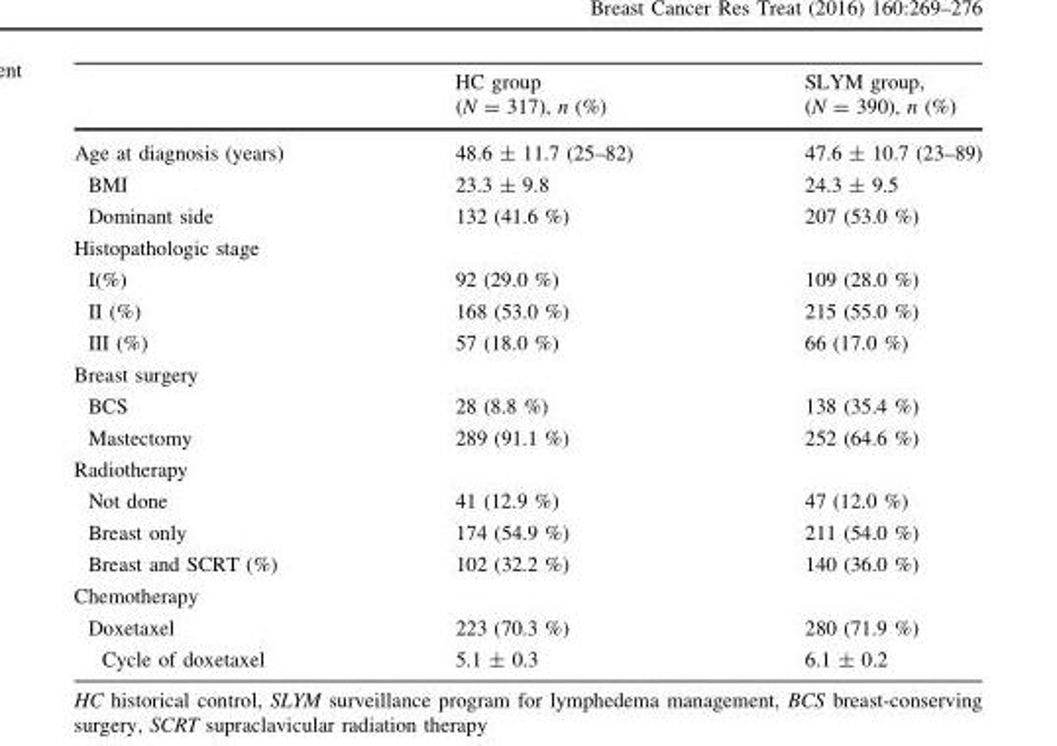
<table><thead><tr><td></td><td>HC group (N = 317), n (%)</td><td>SLYM group, (N = 390), n (%)</td></tr></thead><tbody><tr><td>Age at diagnosis (years)</td><td>48.6 ± 11.7 (25–82)</td><td>47.6 ± 10.7 (23–89)</td></tr><tr><td>BMI</td><td>23.3 ± 9.8</td><td>24.3 ± 9.5</td></tr><tr><td>Dominant side</td><td>132 (41.6 %)</td><td>207 (53.0 %)</td></tr><tr><td colspan="3">Histopathologic stage</td></tr><tr><td>I(%)</td><td>92 (29.0 %)</td><td>109 (28.0 %)</td></tr><tr><td>II (%)</td><td>168 (53.0 %)</td><td>215 (55.0 %)</td></tr><tr><td>III (%)</td><td>57 (18.0 %)</td><td>66 (17.0 %)</td></tr><tr><td colspan="3">Breast surgery</td></tr><tr><td>BCS</td><td>28 (8.8 %)</td><td>138 (35.4 %)</td></tr><tr><td>Mastectomy</td><td>289 (91.1 %)</td><td>252 (64.6 %)</td></tr><tr><td colspan="3">Radiotherapy</td></tr><tr><td>Not done</td><td>41 (12.9 %)</td><td>47 (12.0 %)</td></tr><tr><td>Breast only</td><td>174 (54.9 %)</td><td>211 (54.0 %)</td></tr><tr><td>Breast and SCRT (%)</td><td>102 (32.2 %)</td><td>140 (36.0 %)</td></tr><tr><td colspan="3">Chemotherapy</td></tr><tr><td>Doxetaxel</td><td>223 (70.3 %)</td><td>280 (71.9 %)</td></tr><tr><td>Cycle of doxetaxel</td><td>5.1 ± 0.3</td><td>6.1 ± 0.2</td></tr></tbody></table>